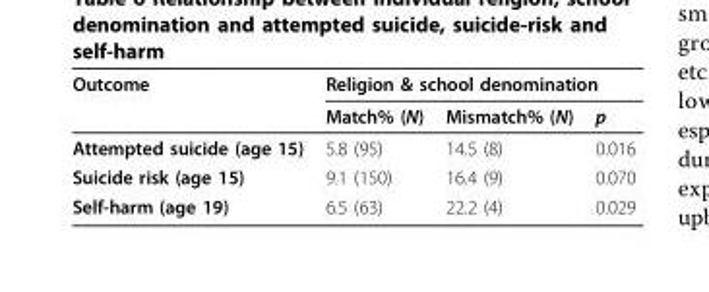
<table><thead><tr><td rowspan="2">Outcome</td><td colspan="3">Religion &amp; school denomination</td></tr><tr><td>Match% (N)</td><td>Mismatch% (N)</td><td>p</td></tr></thead><tbody><tr><td>Attempted suicide (age 15)</td><td>5.8 (95)</td><td>14.5 (8)</td><td>0.016</td></tr><tr><td>Suicide risk (age 15)</td><td>9.1 (150)</td><td>16.4 (9)</td><td>0.070</td></tr><tr><td>Self-harm (age 19)</td><td>6.5 (63)</td><td>22.2 (4)</td><td>0.029</td></tr></tbody></table>